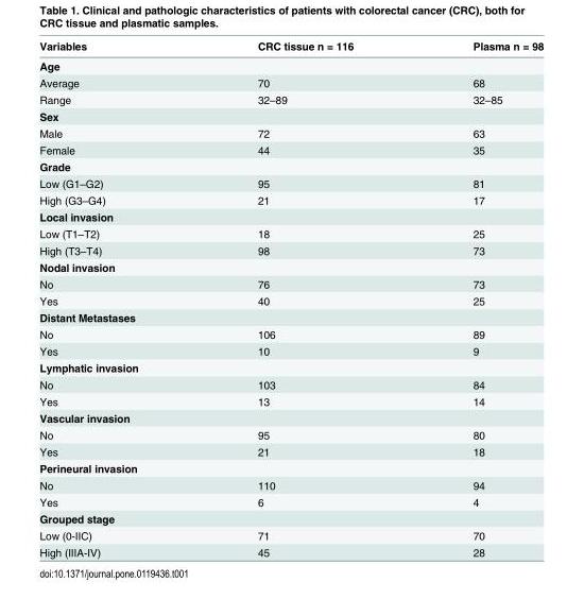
<table><thead><tr><td>Variables</td><td>CRC tissue n = 116</td><td>Plasma n = 98</td></tr></thead><tbody><tr><td colspan="3">Age</td></tr><tr><td>Average</td><td>70</td><td>68</td></tr><tr><td>Range</td><td>32–89</td><td>32–85</td></tr><tr><td colspan="3">Sex</td></tr><tr><td>Male</td><td>72</td><td>63</td></tr><tr><td>Female</td><td>44</td><td>35</td></tr><tr><td colspan="3">Grade</td></tr><tr><td>Low (G1–G2)</td><td>95</td><td>81</td></tr><tr><td>High (G3–G4)</td><td>21</td><td>17</td></tr><tr><td colspan="3">Local invasion</td></tr><tr><td>Low (T1–T2)</td><td>18</td><td>25</td></tr><tr><td>High (T3–T4)</td><td>98</td><td>73</td></tr><tr><td colspan="3">Nodal invasion</td></tr><tr><td>No</td><td>76</td><td>73</td></tr><tr><td>Yes</td><td>40</td><td>25</td></tr><tr><td colspan="3">Distant Metastases</td></tr><tr><td>No</td><td>106</td><td>89</td></tr><tr><td>Yes</td><td>10</td><td>9</td></tr><tr><td colspan="3">Lymphatic invasion</td></tr><tr><td>No</td><td>103</td><td>84</td></tr><tr><td>Yes</td><td>13</td><td>14</td></tr><tr><td colspan="3">Vascular invasion</td></tr><tr><td>No</td><td>95</td><td>80</td></tr><tr><td>Yes</td><td>21</td><td>18</td></tr><tr><td colspan="3">Perineural invasion</td></tr><tr><td>No</td><td>110</td><td>94</td></tr><tr><td>Yes</td><td>6</td><td>4</td></tr><tr><td colspan="3">Grouped stage</td></tr><tr><td>Low (0-IIC)</td><td>71</td><td>70</td></tr><tr><td>High (IIIA-IV)</td><td>45</td><td>28</td></tr></tbody></table>